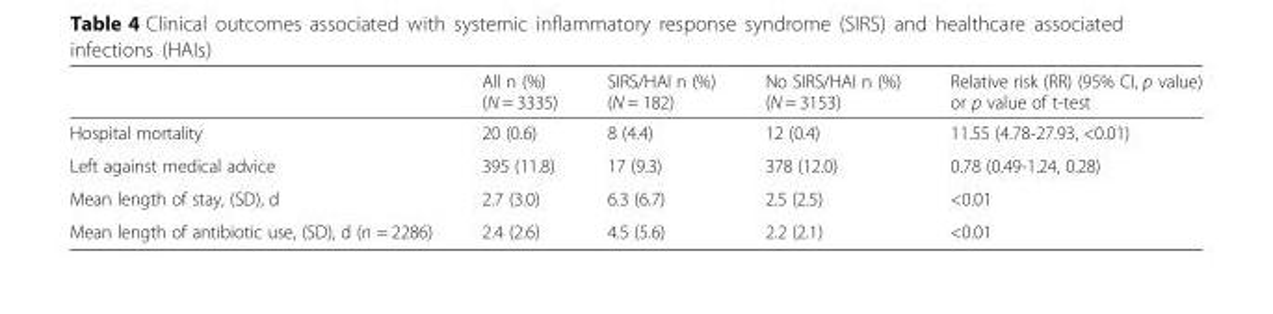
<table><thead><tr><td></td><td>All n (%) (N = 3335)</td><td>SIRS/HAI n (%) (N = 182)</td><td>No SIRS/HAI n (%) (N = 3153)</td><td>Relative risk (RR) (95% CI, p value) or p value of t-test</td></tr></thead><tbody><tr><td>Hospital mortality</td><td>20 (0.6)</td><td>8 (4.4)</td><td>12 (0.4)</td><td>11.55 (4.78-27.93, &lt;0.01)</td></tr><tr><td>Left against medical advice</td><td>395 (11.8)</td><td>17 (9.3)</td><td>378 (12.0)</td><td>0.78 (0.49-1.24, 0.28)</td></tr><tr><td>Mean length of stay, (SD), d</td><td>2.7 (3.0)</td><td>6.3 (6.7)</td><td>2.5 (2.5)</td><td>&lt;0.01</td></tr><tr><td>Mean length of antibiotic use, (SD), d (n = 2286)</td><td>2.4 (2.6)</td><td>4.5 (5.6)</td><td>2.2 (2.1)</td><td>&lt;0.01</td></tr></tbody></table>